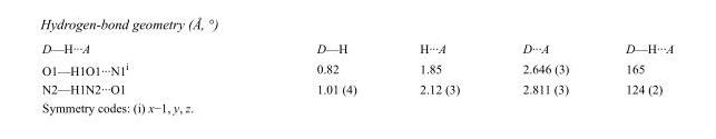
<table><tbody><tr><td>D—H···A</td><td>D—H</td><td>H···A</td><td>D···A</td><td>D—H···A</td></tr><tr><td>O1—H1O1···N1<sup>i</sup></td><td>0.82</td><td>1.85</td><td>2.646 (3)</td><td>165</td></tr><tr><td>N2—H1N2···O1</td><td>1.01 (4)</td><td>2.12 (3)</td><td>2.811 (3)</td><td>124 (2)</td></tr></tbody></table>